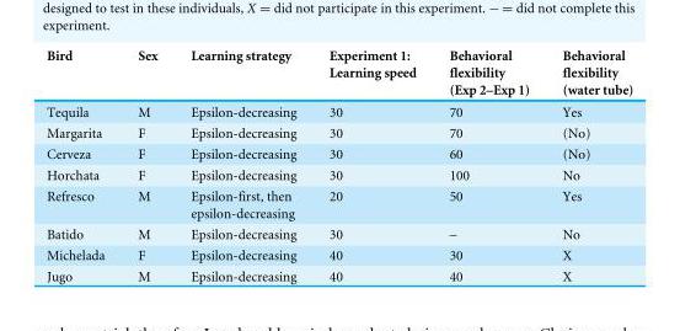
<table><thead><tr><td>Bird</td><td>Sex</td><td>Learning strategy</td><td>Experiment 1: Learning speed</td><td>Behavioral flexibility (Exp 2–Exp 1)</td><td>Behavioral flexibility (water tube)</td></tr></thead><tbody><tr><td>Tequila</td><td>M</td><td>Epsilon-decreasing</td><td>30</td><td>70</td><td>Yes</td></tr><tr><td>Margarita</td><td>F</td><td>Epsilon-decreasing</td><td>30</td><td>70</td><td>(No)</td></tr><tr><td>Cerveza</td><td>F</td><td>Epsilon-decreasing</td><td>30</td><td>60</td><td>(No)</td></tr><tr><td>Horchata</td><td>F</td><td>Epsilon-decreasing</td><td>30</td><td>100</td><td>No</td></tr><tr><td>Refresco</td><td>M</td><td>Epsilon-first, then epsilon-decreasing</td><td>20</td><td>50</td><td>Yes</td></tr><tr><td>Batido</td><td>M</td><td>Epsilon-decreasing</td><td>30</td><td>–</td><td>No</td></tr><tr><td>Michelada</td><td>F</td><td>Epsilon-decreasing</td><td>40</td><td>30</td><td>X</td></tr><tr><td>Jugo</td><td>M</td><td>Epsilon-decreasing</td><td>40</td><td>40</td><td>X</td></tr></tbody></table>